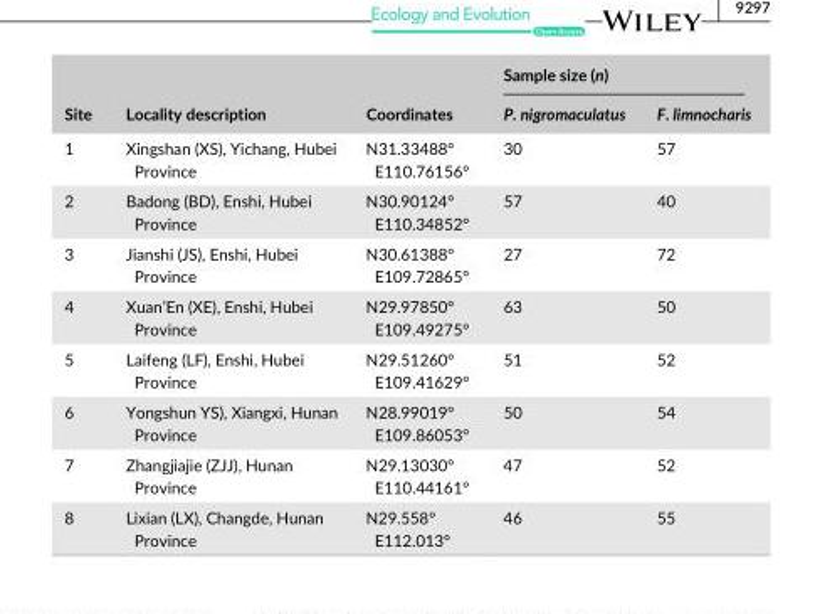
<table><thead><tr><td rowspan="2">Site</td><td rowspan="2">Locality description</td><td rowspan="2">Coordinates</td><td colspan="2">Sample size (n)</td></tr><tr><td>P. nigromaculatus</td><td>F. limnocharis</td></tr></thead><tbody><tr><td>1</td><td>Xingshan (XS), Yichang, Hubei Province</td><td>N31.33488° E110.76156°</td><td>30</td><td>57</td></tr><tr><td>2</td><td>Badong (BD), Enshi, Hubei Province</td><td>N30.90124° E110.34852°</td><td>57</td><td>40</td></tr><tr><td>3</td><td>Jianshi (JS), Enshi, Hubei Province</td><td>N30.61388° E109.72865°</td><td>27</td><td>72</td></tr><tr><td>4</td><td>Xuan’En (XE), Enshi, Hubei Province</td><td>N29.97850° E109.49275°</td><td>63</td><td>50</td></tr><tr><td>5</td><td>Laifeng (LF), Enshi, Hubei Province</td><td>N29.51260° E109.41629°</td><td>51</td><td>52</td></tr><tr><td>6</td><td>Yongshun YS), Xiangxi, Hunan Province</td><td>N28.99019° E109.86053°</td><td>50</td><td>54</td></tr><tr><td>7</td><td>Zhangjiajie (ZJJ), Hunan Province</td><td>N29.13030° E110.44161°</td><td>47</td><td>52</td></tr><tr><td>8</td><td>Lixian (LX), Changde, Hunan Province</td><td>N29.558° E112.013°</td><td>46</td><td>55</td></tr></tbody></table>